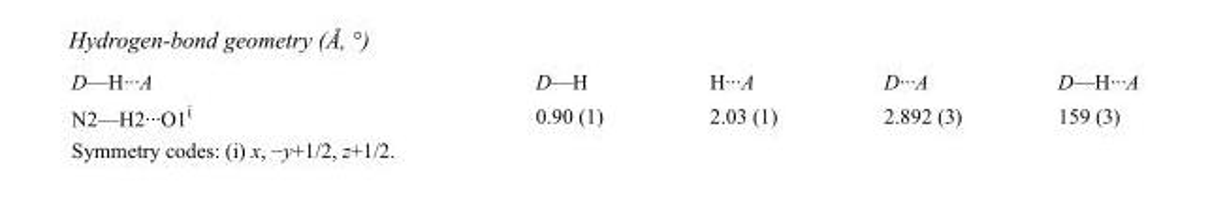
<table><tbody><tr><td>D—H···A</td><td>D—H</td><td>H···A</td><td>D···A</td><td>D—H···A</td></tr><tr><td>N2—H2···O1<sup>i</sup></td><td>0.90 (1)</td><td>2.03 (1)</td><td>2.892 (3)</td><td>159 (3)</td></tr></tbody></table>